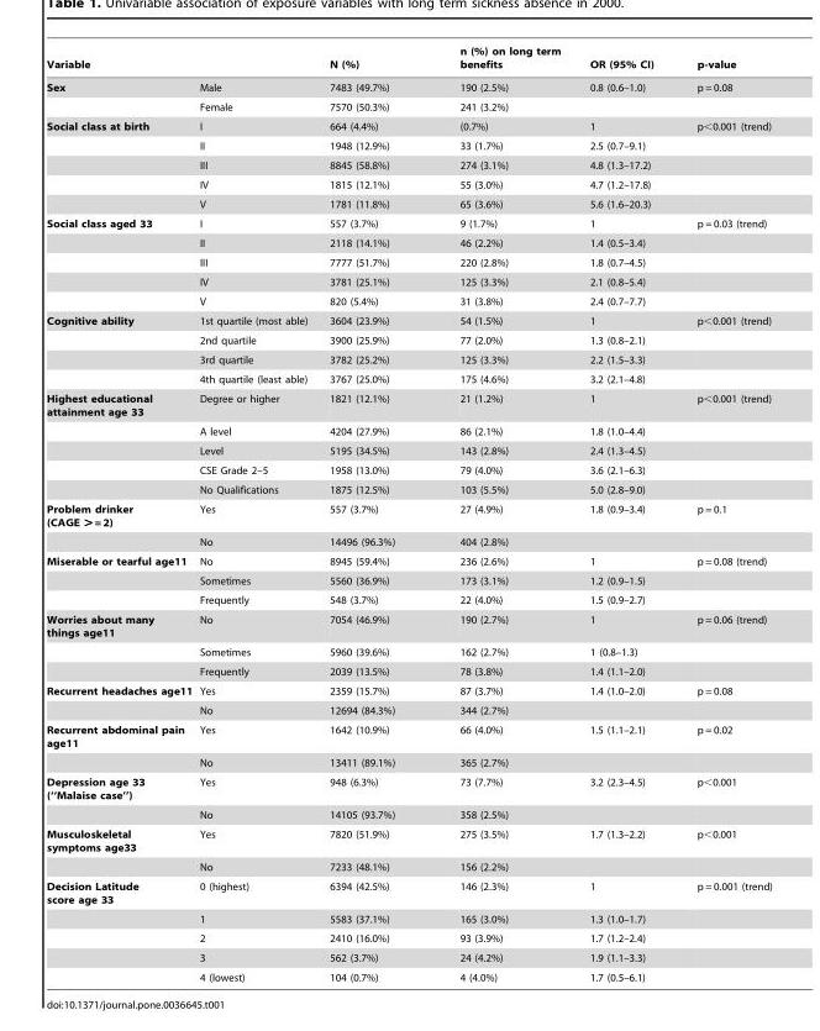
<table><thead><tr><td>Variable</td><td></td><td>N (%)</td><td>n (%) on long term benefits</td><td>OR (95% CI)</td><td>p-value</td></tr></thead><tbody><tr><td rowspan="2">Sex</td><td>Male</td><td>7483 (49.7%)</td><td>190 (2.5%)</td><td>0.8 (0.6–1.0)</td><td>p = 0.08</td></tr><tr><td>Female</td><td>7570 (50.3%)</td><td>241 (3.2%)</td><td></td><td></td></tr><tr><td rowspan="5">Social class at birth</td><td>I</td><td>664 (4.4%)</td><td>(0.7%)</td><td>1</td><td>p&lt;0.001 (trend)</td></tr><tr><td>II</td><td>1948 (12.9%)</td><td>33 (1.7%)</td><td>2.5 (0.7–9.1)</td><td></td></tr><tr><td>III</td><td>8845 (58.8%)</td><td>274 (3.1%)</td><td>4.8 (1.3–17.2)</td><td></td></tr><tr><td>IV</td><td>1815 (12.1%)</td><td>55 (3.0%)</td><td>4.7 (1.2–17.8)</td><td></td></tr><tr><td>V</td><td>1781 (11.8%)</td><td>65 (3.6%)</td><td>5.6 (1.6–20.3)</td><td></td></tr><tr><td rowspan="5">Social class aged 33</td><td>I</td><td>557 (3.7%)</td><td>9 (1.7%)</td><td>1</td><td>p = 0.03 (trend)</td></tr><tr><td>II</td><td>2118 (14.1%)</td><td>46 (2.2%)</td><td>1.4 (0.5–3.4)</td><td></td></tr><tr><td>III</td><td>7777 (51.7%)</td><td>220 (2.8%)</td><td>1.8 (0.7–4.5)</td><td></td></tr><tr><td>IV</td><td>3781 (25.1%)</td><td>125 (3.3%)</td><td>2.1 (0.8–5.4)</td><td></td></tr><tr><td>V</td><td>820 (5.4%)</td><td>31 (3.8%)</td><td>2.4 (0.7–7.7)</td><td></td></tr><tr><td rowspan="4">Cognitive ability</td><td>1st quartile (most able)</td><td>3604 (23.9%)</td><td>54 (1.5%)</td><td>1</td><td>p&lt;0.001 (trend)</td></tr><tr><td>2nd quartile</td><td>3900 (25.9%)</td><td>77 (2.0%)</td><td>1.3 (0.8–2.1)</td><td></td></tr><tr><td>3rd quartile</td><td>3782 (25.2%)</td><td>125 (3.3%)</td><td>2.2 (1.5–3.3)</td><td></td></tr><tr><td>4th quartile (least able)</td><td>3767 (25.0%)</td><td>175 (4.6%)</td><td>3.2 (2.1–4.8)</td><td></td></tr><tr><td rowspan="5">Highest educational attainment age 33</td><td>Degree or higher</td><td>1821 (12.1%)</td><td>21 (1.2%)</td><td>1</td><td>p&lt;0.001 (trend)</td></tr><tr><td>A level</td><td>4204 (27.9%)</td><td>86 (2.1%)</td><td>1.8 (1.0–4.4)</td><td></td></tr><tr><td>Level</td><td>5195 (34.5%)</td><td>143 (2.8%)</td><td>2.4 (1.3–4.5)</td><td></td></tr><tr><td>CSE Grade 2–5</td><td>1958 (13.0%)</td><td>79 (4.0%)</td><td>3.6 (2.1–6.3)</td><td></td></tr><tr><td>No Qualifications</td><td>1875 (12.5%)</td><td>103 (5.5%)</td><td>5.0 (2.8–9.0)</td><td></td></tr><tr><td rowspan="2">Problem drinker (CAGE &gt; = 2)</td><td>Yes</td><td>557 (3.7%)</td><td>27 (4.9%)</td><td>1.8 (0.9–3.4)</td><td>p = 0.1</td></tr><tr><td>No</td><td>14496 (96.3%)</td><td>404 (2.8%)</td><td></td><td></td></tr><tr><td rowspan="3">Miserable or tearful age11</td><td>No</td><td>8945 (59.4%)</td><td>236 (2.6%)</td><td>1</td><td>p = 0.08 (trend)</td></tr><tr><td>Sometimes</td><td>5560 (36.9%)</td><td>173 (3.1%)</td><td>1.2 (0.9–1.5)</td><td></td></tr><tr><td>Frequently</td><td>548 (3.7%)</td><td>22 (4.0%)</td><td>1.5 (0.9–2.7)</td><td></td></tr><tr><td rowspan="3">Worries about many things age11</td><td>No</td><td>7054 (46.9%)</td><td>190 (2.7%)</td><td>1</td><td>p = 0.06 (trend)</td></tr><tr><td>Sometimes</td><td>5960 (39.6%)</td><td>162 (2.7%)</td><td>1 (0.8–1.3)</td><td></td></tr><tr><td>Frequently</td><td>2039 (13.5%)</td><td>78 (3.8%)</td><td>1.4 (1.1–2.0)</td><td></td></tr><tr><td rowspan="2">Recurrent headaches age11</td><td>Yes</td><td>2359 (15.7%)</td><td>87 (3.7%)</td><td>1.4 (1.0–2.0)</td><td>p = 0.08</td></tr><tr><td>No</td><td>12694 (84.3%)</td><td>344 (2.7%)</td><td></td><td></td></tr><tr><td rowspan="2">Recurrent abdominal pain age11</td><td>Yes</td><td>1642 (10.9%)</td><td>66 (4.0%)</td><td>1.5 (1.1–2.1)</td><td>p = 0.02</td></tr><tr><td>No</td><td>13411 (89.1%)</td><td>365 (2.7%)</td><td></td><td></td></tr><tr><td rowspan="2">Depression age 33 (‘‘Malaise case’’)</td><td>Yes</td><td>948 (6.3%)</td><td>73 (7.7%)</td><td>3.2 (2.3–4.5)</td><td>p&lt;0.001</td></tr><tr><td>No</td><td>14105 (93.7%)</td><td>358 (2.5%)</td><td></td><td></td></tr><tr><td rowspan="2">Musculoskeletal symptoms age33</td><td>Yes</td><td>7820 (51.9%)</td><td>275 (3.5%)</td><td>1.7 (1.3–2.2)</td><td>p&lt;0.001</td></tr><tr><td>No</td><td>7233 (48.1%)</td><td>156 (2.2%)</td><td></td><td></td></tr><tr><td rowspan="5">Decision Latitude score age 33</td><td>0 (highest)</td><td>6394 (42.5%)</td><td>146 (2.3%)</td><td>1</td><td>p = 0.001 (trend)</td></tr><tr><td>1</td><td>5583 (37.1%)</td><td>165 (3.0%)</td><td>1.3 (1.0–1.7)</td><td></td></tr><tr><td>2</td><td>2410 (16.0%)</td><td>93 (3.9%)</td><td>1.7 (1.2–2.4)</td><td></td></tr><tr><td>3</td><td>562 (3.7%)</td><td>24 (4.2%)</td><td>1.9 (1.1–3.3)</td><td></td></tr><tr><td>4 (lowest)</td><td>104 (0.7%)</td><td>4 (4.0%)</td><td>1.7 (0.5–6.1)</td><td></td></tr></tbody></table>